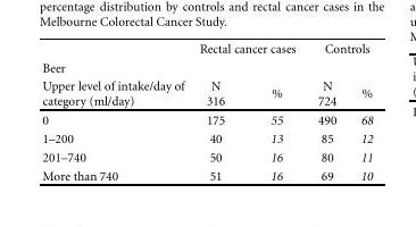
<table><thead><tr><td rowspan="3">Beer Upper level of intake/day of category (ml/day)</td><td colspan="2">Rectal cancer cases</td><td colspan="2">Controls</td></tr><tr><td rowspan="2">N 316</td><td rowspan="2">%</td><td rowspan="2">N 724</td><td rowspan="2">%</td></tr><tr></tr></thead><tbody><tr><td>0</td><td>175</td><td>55</td><td>490</td><td>68</td></tr><tr><td>1–200</td><td>40</td><td>13</td><td>85</td><td>12</td></tr><tr><td>201–740</td><td>50</td><td>16</td><td>80</td><td>11</td></tr><tr><td>More than 740</td><td>51</td><td>16</td><td>69</td><td>10</td></tr></tbody></table>